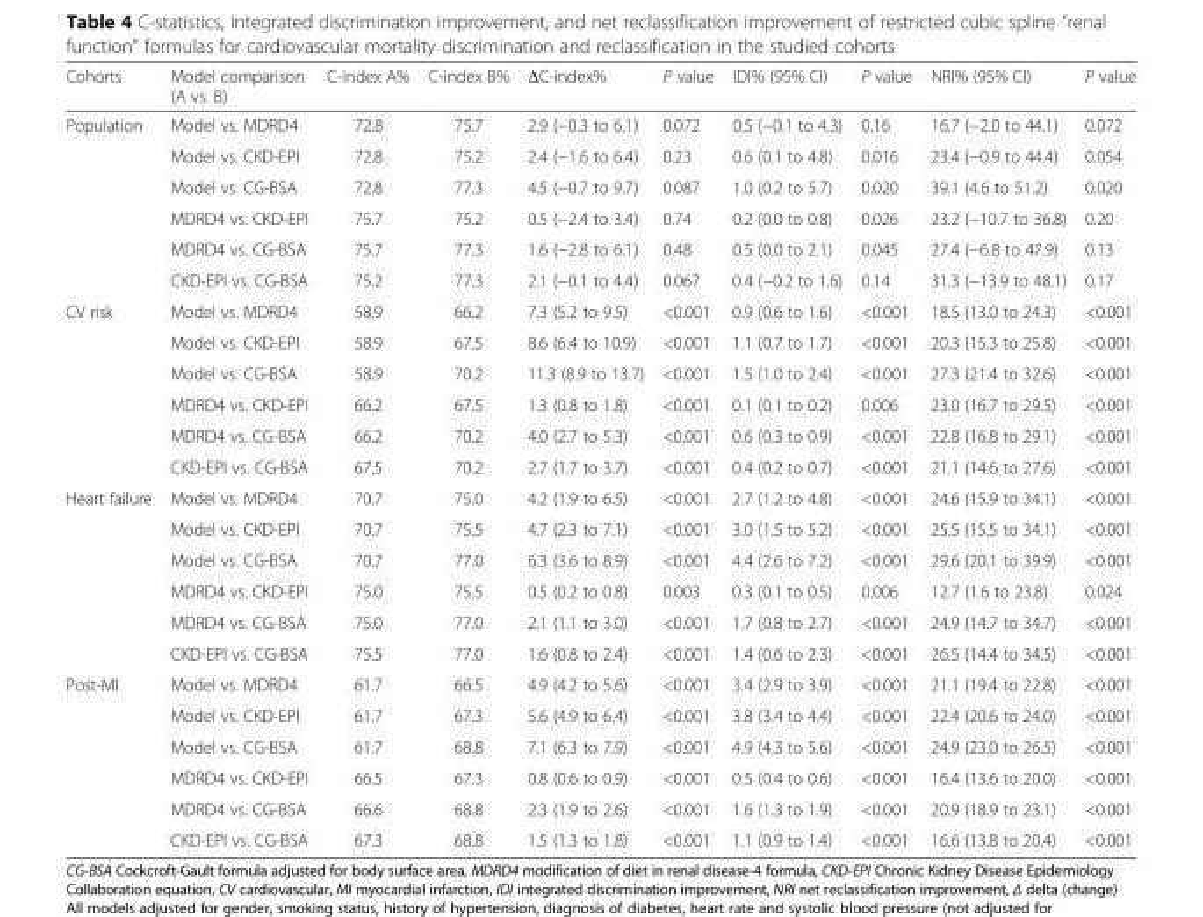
<table><thead><tr><td>Cohorts</td><td>Model comparison (A vs. B)</td><td>C-index A%</td><td>C-index B%</td><td>ΔC-index%</td><td>P value</td><td>IDI% (95% CI)</td><td>P value</td><td>NRI% (95% CI)</td><td>P value</td></tr></thead><tbody><tr><td rowspan="6">Population</td><td>Model vs. MDRD4</td><td>72.8</td><td>75.7</td><td>2.9 (−0.3 to 6.1)</td><td>0.072</td><td>0.5 (−0.1 to 4.3)</td><td>0.16</td><td>16.7 (−2.0 to 44.1)</td><td>0.072</td></tr><tr><td>Model vs. CKD-EPI</td><td>72.8</td><td>75.2</td><td>2.4 (−1.6 to 6.4)</td><td>0.23</td><td>0.6 (0.1 to 4.8)</td><td>0.016</td><td>23.4 (−0.9 to 44.4)</td><td>0.054</td></tr><tr><td>Model vs. CG-BSA</td><td>72.8</td><td>77.3</td><td>4.5 (−0.7 to 9.7)</td><td>0.087</td><td>1.0 (0.2 to 5.7)</td><td>0.020</td><td>39.1 (4.6 to 51.2)</td><td>0.020</td></tr><tr><td>MDRD4 vs. CKD-EPI</td><td>75.7</td><td>75.2</td><td>0.5 (−2.4 to 3.4)</td><td>0.74</td><td>0.2 (0.0 to 0.8)</td><td>0.026</td><td>23.2 (−10.7 to 36.8)</td><td>0.20</td></tr><tr><td>MDRD4 vs. CG-BSA</td><td>75.7</td><td>77.3</td><td>1.6 (−2.8 to 6.1)</td><td>0.48</td><td>0.5 (0.0 to 2.1)</td><td>0.045</td><td>27.4 (−6.8 to 47.9)</td><td>0.13</td></tr><tr><td>CKD-EPI vs. CG-BSA</td><td>75.2</td><td>77.3</td><td>2.1 (−0.1 to 4.4)</td><td>0.067</td><td>0.4 (−0.2 to 1.6)</td><td>0.14</td><td>31.3 (−13.9 to 48.1)</td><td>0.17</td></tr><tr><td rowspan="6">CV risk</td><td>Model vs. MDRD4</td><td>58.9</td><td>66.2</td><td>7.3 (5.2 to 9.5)</td><td>&lt;0.001</td><td>0.9 (0.6 to 1.6)</td><td>&lt;0.001</td><td>18.5 (13.0 to 24.3)</td><td>&lt;0.001</td></tr><tr><td>Model vs. CKD-EPI</td><td>58.9</td><td>67.5</td><td>8.6 (6.4 to 10.9)</td><td>&lt;0.001</td><td>1.1 (0.7 to 1.7)</td><td>&lt;0.001</td><td>20.3 (15.3 to 25.8)</td><td>&lt;0.001</td></tr><tr><td>Model vs. CG-BSA</td><td>58.9</td><td>70.2</td><td>11.3 (8.9 to 13.7)</td><td>&lt;0.001</td><td>1.5 (1.0 to 2.4)</td><td>&lt;0.001</td><td>27.3 (21.4 to 32.6)</td><td>&lt;0.001</td></tr><tr><td>MDRD4 vs. CKD-EPI</td><td>66.2</td><td>67.5</td><td>1.3 (0.8 to 1.8)</td><td>&lt;0.001</td><td>0.1 (0.1 to 0.2)</td><td>0.006</td><td>23.0 (16.7 to 29.5)</td><td>&lt;0.001</td></tr><tr><td>MDRD4 vs. CG-BSA</td><td>66.2</td><td>70.2</td><td>4.0 (2.7 to 5.3)</td><td>&lt;0.001</td><td>0.6 (0.3 to 0.9)</td><td>&lt;0.001</td><td>22.8 (16.8 to 29.1)</td><td>&lt;0.001</td></tr><tr><td>CKD-EPI vs. CG-BSA</td><td>67.5</td><td>70.2</td><td>2.7 (1.7 to 3.7)</td><td>&lt;0.001</td><td>0.4 (0.2 to 0.7)</td><td>&lt;0.001</td><td>21.1 (14.6 to 27.6)</td><td>&lt;0.001</td></tr><tr><td rowspan="6">Heart failure</td><td>Model vs. MDRD4</td><td>70.7</td><td>75.0</td><td>4.2 (1.9 to 6.5)</td><td>&lt;0.001</td><td>2.7 (1.2 to 4.8)</td><td>&lt;0.001</td><td>24.6 (15.9 to 34.1)</td><td>&lt;0.001</td></tr><tr><td>Model vs. CKD-EPI</td><td>70.7</td><td>75.5</td><td>4.7 (2.3 to 7.1)</td><td>&lt;0.001</td><td>3.0 (1.5 to 5.2)</td><td>&lt;0.001</td><td>25.5 (15.5 to 34.1)</td><td>&lt;0.001</td></tr><tr><td>Model vs. CG-BSA</td><td>70.7</td><td>77.0</td><td>6.3 (3.6 to 8.9)</td><td>&lt;0.001</td><td>4.4 (2.6 to 7.2)</td><td>&lt;0.001</td><td>29.6 (20.1 to 39.9)</td><td>&lt;0.001</td></tr><tr><td>MDRD4 vs. CKD-EPI</td><td>75.0</td><td>75.5</td><td>0.5 (0.2 to 0.8)</td><td>0.003</td><td>0.3 (0.1 to 0.5)</td><td>0.006</td><td>12.7 (1.6 to 23.8)</td><td>0.024</td></tr><tr><td>MDRD4 vs. CG-BSA</td><td>75.0</td><td>77.0</td><td>2.1 (1.1 to 3.0)</td><td>&lt;0.001</td><td>1.7 (0.8 to 2.7)</td><td>&lt;0.001</td><td>24.9 (14.7 to 34.7)</td><td>&lt;0.001</td></tr><tr><td>CKD-EPI vs. CG-BSA</td><td>75.5</td><td>77.0</td><td>1.6 (0.8 to 2.4)</td><td>&lt;0.001</td><td>1.4 (0.6 to 2.3)</td><td>&lt;0.001</td><td>26.5 (14.4 to 34.5)</td><td>&lt;0.001</td></tr><tr><td rowspan="6">Post-MI</td><td>Model vs. MDRD4</td><td>61.7</td><td>66.5</td><td>4.9 (4.2 to 5.6)</td><td>&lt;0.001</td><td>3.4 (2.9 to 3.9)</td><td>&lt;0.001</td><td>21.1 (19.4 to 22.8)</td><td>&lt;0.001</td></tr><tr><td>Model vs. CKD-EPI</td><td>61.7</td><td>67.3</td><td>5.6 (4.9 to 6.4)</td><td>&lt;0.001</td><td>3.8 (3.4 to 4.4)</td><td>&lt;0.001</td><td>22.4 (20.6 to 24.0)</td><td>&lt;0.001</td></tr><tr><td>Model vs. CG-BSA</td><td>61.7</td><td>68.8</td><td>7.1 (6.3 to 7.9)</td><td>&lt;0.001</td><td>4.9 (4.3 to 5.6)</td><td>&lt;0.001</td><td>24.9 (23.0 to 26.5)</td><td>&lt;0.001</td></tr><tr><td>MDRD4 vs. CKD-EPI</td><td>66.5</td><td>67.3</td><td>0.8 (0.6 to 0.9)</td><td>&lt;0.001</td><td>0.5 (0.4 to 0.6)</td><td>&lt;0.001</td><td>16.4 (13.6 to 20.0)</td><td>&lt;0.001</td></tr><tr><td>MDRD4 vs. CG-BSA</td><td>66.6</td><td>68.8</td><td>2.3 (1.9 to 2.6)</td><td>&lt;0.001</td><td>1.6 (1.3 to 1.9)</td><td>&lt;0.001</td><td>20.9 (18.9 to 23.1)</td><td>&lt;0.001</td></tr><tr><td>CKD-EPI vs. CG-BSA</td><td>67.3</td><td>68.8</td><td>1.5 (1.3 to 1.8)</td><td>&lt;0.001</td><td>1.1 (0.9 to 1.4)</td><td>&lt;0.001</td><td>16.6 (13.8 to 20.4)</td><td>&lt;0.001</td></tr></tbody></table>